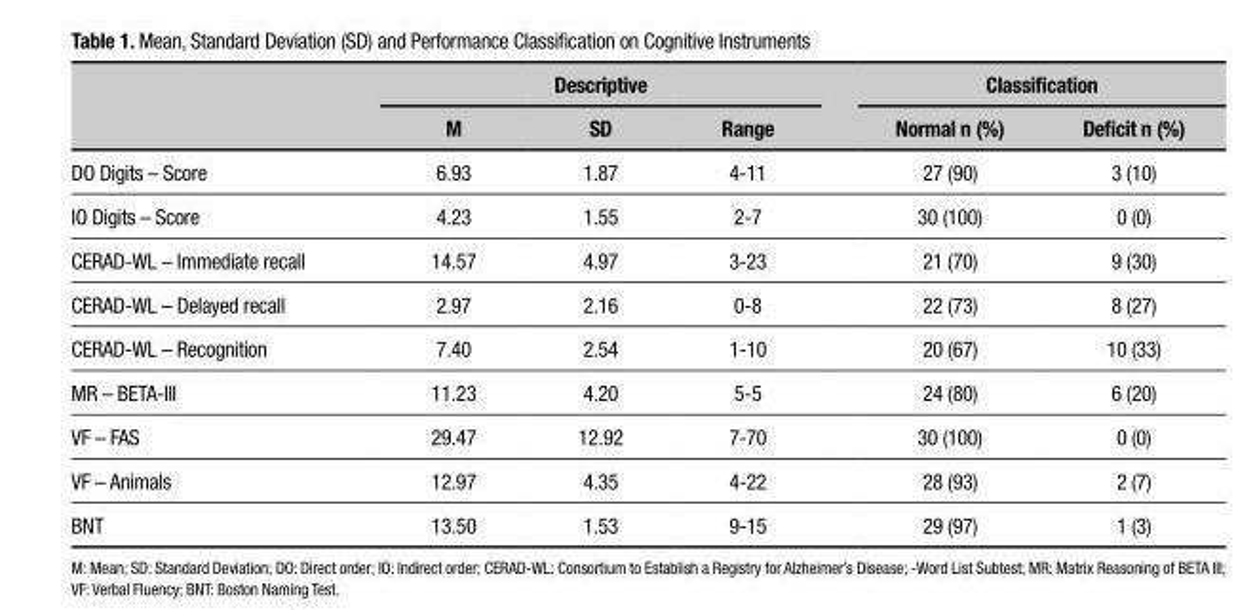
<table><thead><tr><td rowspan="2"></td><td colspan="3">Descriptive</td><td colspan="2">Classification</td></tr><tr><td>M</td><td>SD</td><td>Range</td><td>Normal n (%)</td><td>Deficit n (%)</td></tr></thead><tbody><tr><td>DO Digits – Score</td><td>6.93</td><td>1.87</td><td>4-11</td><td>27 (90)</td><td>3 (10)</td></tr><tr><td>IO Digits – Score</td><td>4.23</td><td>1.55</td><td>2-7</td><td>30 (100)</td><td>0 (0)</td></tr><tr><td>CERAD-WL – Immediate recall</td><td>14.57</td><td>4.97</td><td>3-23</td><td>21 (70)</td><td>9 (30)</td></tr><tr><td>CERAD-WL – Delayed recall</td><td>2.97</td><td>2.16</td><td>0-8</td><td>22 (73)</td><td>8 (27)</td></tr><tr><td>CERAD-WL – Recognition</td><td>7.40</td><td>2.54</td><td>1-10</td><td>20 (67)</td><td>10 (33)</td></tr><tr><td>MR – BETA-III</td><td>11.23</td><td>4.20</td><td>5-5</td><td>24 (80)</td><td>6 (20)</td></tr><tr><td>VF – FAS</td><td>29.47</td><td>12.92</td><td>7-70</td><td>30 (100)</td><td>0 (0)</td></tr><tr><td>VF – Animals</td><td>12.97</td><td>4.35</td><td>4-22</td><td>28 (93)</td><td>2 (7)</td></tr><tr><td>BNT</td><td>13.50</td><td>1.53</td><td>9-15</td><td>29 (97)</td><td>1 (3)</td></tr></tbody></table>